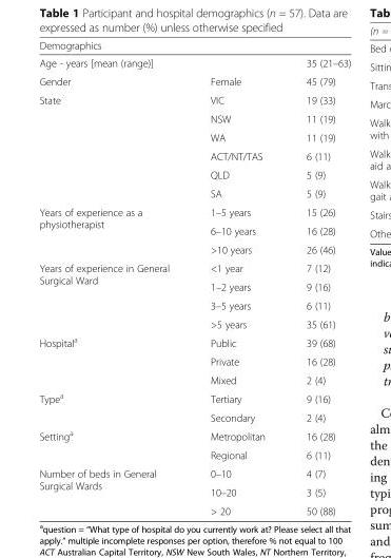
<table><thead><tr><td colspan="3">Demographics</td></tr><tr><td>Age - years [mean (range)]</td><td></td><td>35 (21–63)</td></tr></thead><tbody><tr><td>Gender</td><td>Female</td><td>45 (79)</td></tr><tr><td rowspan="6">State</td><td>VIC</td><td>19 (33)</td></tr><tr><td>NSW</td><td>11 (19)</td></tr><tr><td>WA</td><td>11 (19)</td></tr><tr><td>ACT/NT/TAS</td><td>6 (11)</td></tr><tr><td>QLD</td><td>5 (9)</td></tr><tr><td>SA</td><td>5 (9)</td></tr><tr><td rowspan="3">Years of experience as a physiotherapist</td><td>1–5 years</td><td>15 (26)</td></tr><tr><td>6–10 years</td><td>16 (28)</td></tr><tr><td>&gt;10 years</td><td>26 (46)</td></tr><tr><td rowspan="4">Years of experience in General Surgical Ward</td><td>&lt;1 year</td><td>7 (12)</td></tr><tr><td>1–2 years</td><td>9 (16)</td></tr><tr><td>3–5 years</td><td>6 (11)</td></tr><tr><td>&gt;5 years</td><td>35 (61)</td></tr><tr><td rowspan="3">Hospital<sup>a</sup></td><td>Public</td><td>39 (68)</td></tr><tr><td>Private</td><td>16 (28)</td></tr><tr><td>Mixed</td><td>2 (4)</td></tr><tr><td rowspan="2">Type<sup>a</sup></td><td>Tertiary</td><td>9 (16)</td></tr><tr><td>Secondary</td><td>2 (4)</td></tr><tr><td rowspan="2">Setting<sup>a</sup></td><td>Metropolitan</td><td>16 (28)</td></tr><tr><td>Regional</td><td>6 (11)</td></tr><tr><td rowspan="3">Number of beds in General Surgical Wards</td><td>0–10</td><td>4 (7)</td></tr><tr><td>10–20</td><td>3 (5)</td></tr><tr><td>&gt; 20</td><td>50 (88)</td></tr></tbody></table>